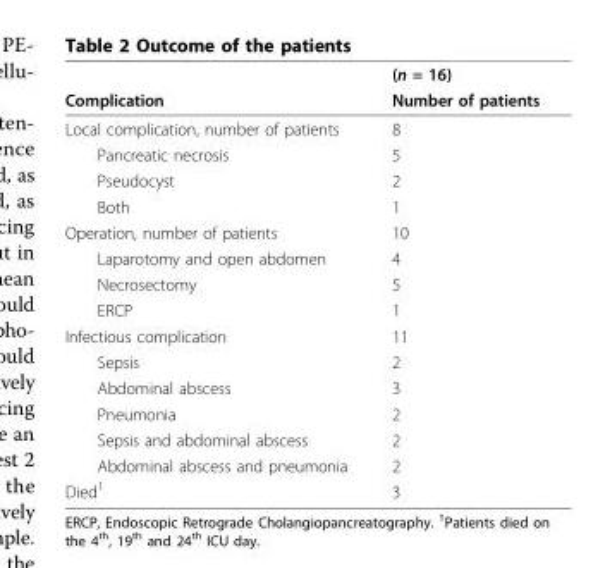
<table><thead><tr><td rowspan="2">Complication</td><td rowspan="2">(n = 16) Number of patients</td></tr><tr></tr></thead><tbody><tr><td>Local complication, number of patients</td><td>8</td></tr><tr><td>Pancreatic necrosis</td><td>5</td></tr><tr><td>Pseudocyst</td><td>2</td></tr><tr><td>Both</td><td>1</td></tr><tr><td>Operation, number of patients</td><td>10</td></tr><tr><td>Laparotomy and open abdomen</td><td>4</td></tr><tr><td>Necrosectomy</td><td>5</td></tr><tr><td>ERCP</td><td>1</td></tr><tr><td>Infectious complication</td><td>11</td></tr><tr><td>Sepsis</td><td>2</td></tr><tr><td>Abdominal abscess</td><td>3</td></tr><tr><td>Pneumonia</td><td>2</td></tr><tr><td>Sepsis and abdominal abscess</td><td>2</td></tr><tr><td>Abdominal abscess and pneumonia</td><td>2</td></tr><tr><td>Died<sup>1</sup></td><td>3</td></tr></tbody></table>